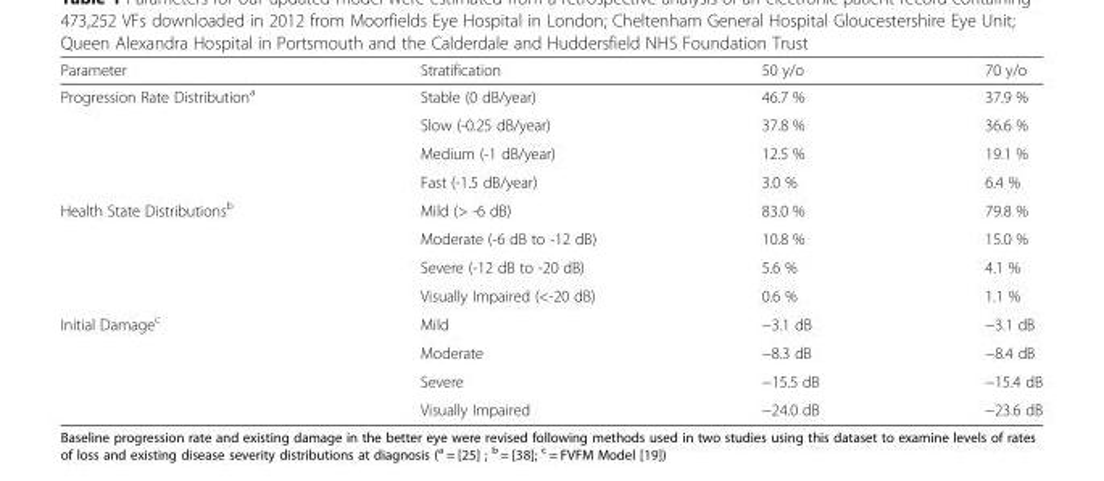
<table><thead><tr><td>Parameter</td><td>Stratification</td><td>50 y/o</td><td>70 y/o</td></tr></thead><tbody><tr><td rowspan="4">Progression Rate Distribution<sup>a</sup></td><td>Stable (0 dB/year)</td><td>46.7 %</td><td>37.9 %</td></tr><tr><td>Slow (-0.25 dB/year)</td><td>37.8 %</td><td>36.6 %</td></tr><tr><td>Medium (-1 dB/year)</td><td>12.5 %</td><td>19.1 %</td></tr><tr><td>Fast (-1.5 dB/year)</td><td>3.0 %</td><td>6.4 %</td></tr><tr><td rowspan="4">Health State Distributions<sup>b</sup></td><td>Mild (&gt; -6 dB)</td><td>83.0 %</td><td>79.8 %</td></tr><tr><td>Moderate (-6 dB to -12 dB)</td><td>10.8 %</td><td>15.0 %</td></tr><tr><td>Severe (-12 dB to -20 dB)</td><td>5.6 %</td><td>4.1 %</td></tr><tr><td>Visually Impaired (&lt;-20 dB)</td><td>0.6 %</td><td>1.1 %</td></tr><tr><td rowspan="4">Initial Damage<sup>c</sup></td><td>Mild</td><td>−3.1 dB</td><td>−3.1 dB</td></tr><tr><td>Moderate</td><td>−8.3 dB</td><td>−8.4 dB</td></tr><tr><td>Severe</td><td>−15.5 dB</td><td>−15.4 dB</td></tr><tr><td>Visually Impaired</td><td>−24.0 dB</td><td>−23.6 dB</td></tr></tbody></table>